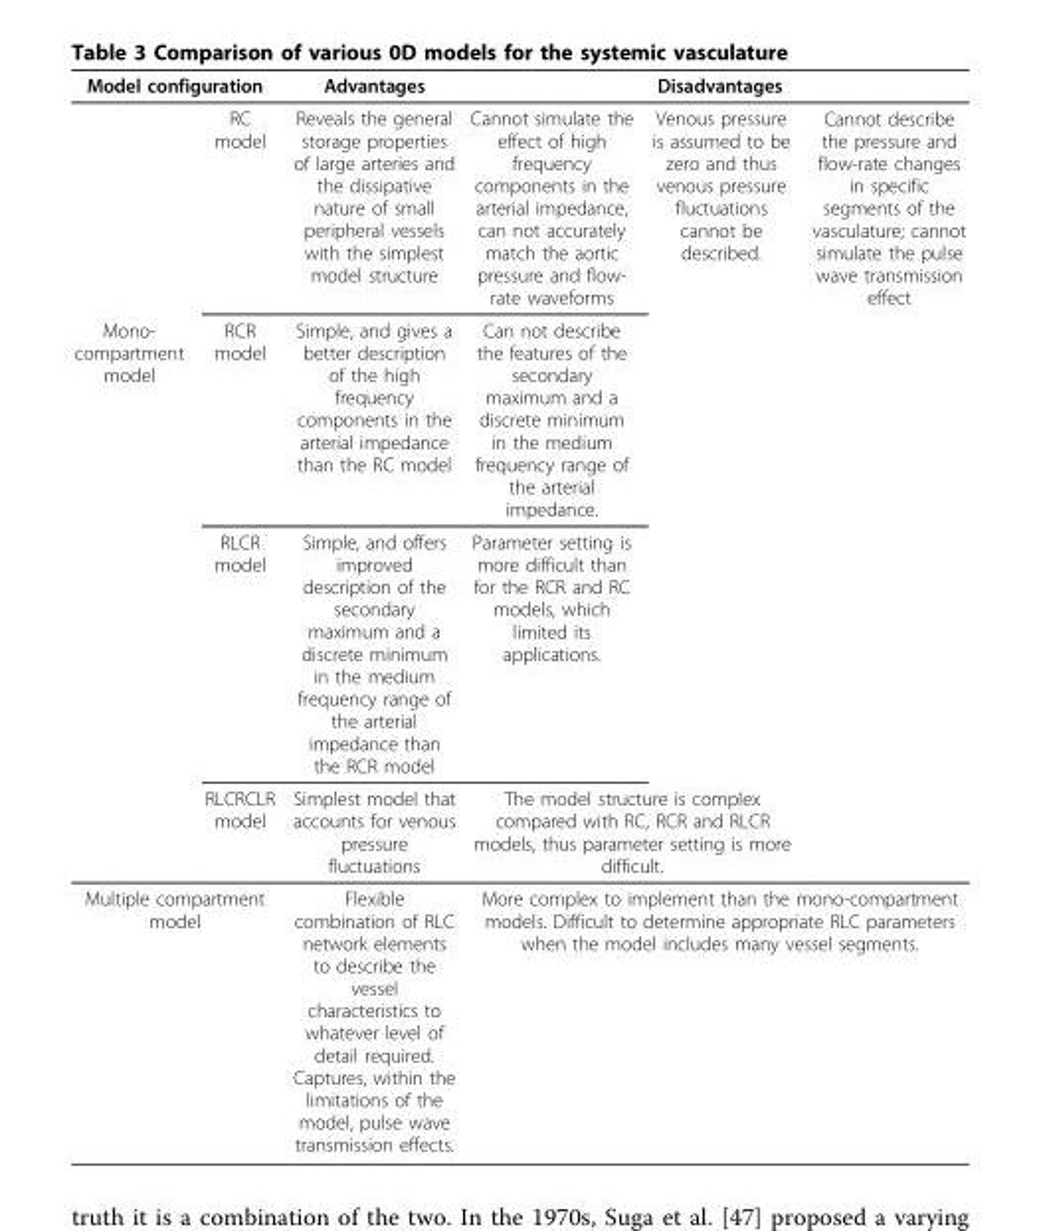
<table><thead><tr><td colspan="2">Model configuration</td><td rowspan="2">Advantages Reveals the general storage properties of large arteries and the dissipative nature of small peripheral vessels with the simplest model structure</td><td colspan="3">Disadvantages</td></tr><tr><td></td><td>RC model</td><td>Cannot simulate the effect of high frequency components in the arterial impedance, can not accurately match the aortic pressure and flow- rate waveforms</td><td>Venous pressure is assumed to be zero and thus venous pressure fluctuations cannot be described.</td><td>Cannot describe the pressure and flow-rate changes in specific segments of the vasculature; cannot simulate the pulse wave transmission effect</td></tr></thead><tbody><tr><td rowspan="3">Mono- compartment model</td><td>RCR model</td><td>Simple, and gives a better description of the high frequency components in the arterial impedance than the RC model</td><td>Can not describe the features of the secondary maximum and a discrete minimum in the medium frequency range of the arterial impedance.</td><td></td><td></td></tr><tr><td>RLCR model</td><td>Simple, and offers improved description of the secondary maximum and a discrete minimum in the medium frequency range of the arterial impedance than the RCR model</td><td>Parameter setting is more difficult than for the RCR and RC models, which limited its applications.</td><td></td><td></td></tr><tr><td>RLCRCLR model</td><td>Simplest model that accounts for venous pressure fluctuations</td><td colspan="2">The model structure is complex compared with RC, RCR and RLCR models, thus parameter setting is more difficult.</td><td></td></tr><tr><td colspan="2">Multiple compartment model</td><td>Flexible combination of RLC network elements to describe the vessel characteristics to whatever level of detail required. Captures, within the limitations of the model, pulse wave transmission effects.</td><td colspan="3">More complex to implement than the mono-compartment models. Difficult to determine appropriate RLC parameters when the model includes many vessel segments.</td></tr></tbody></table>